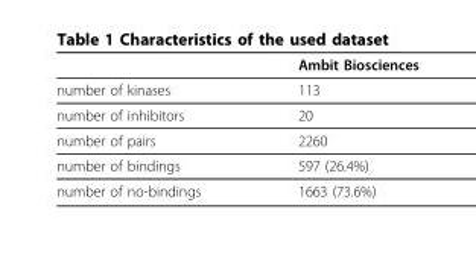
<table><thead><tr><td></td><td>Ambit Biosciences</td></tr></thead><tbody><tr><td>number of kinases</td><td>113</td></tr><tr><td>number of inhibitors</td><td>20</td></tr><tr><td>number of pairs</td><td>2260</td></tr><tr><td>number of bindings</td><td>597 (26.4%)</td></tr><tr><td>number of no-bindings</td><td>1663 (73.6%)</td></tr></tbody></table>